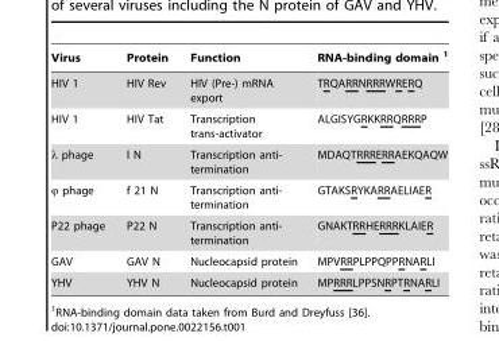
<table><thead><tr><td>Virus</td><td>Protein</td><td>Function</td><td>RNA-binding domain 1</td></tr></thead><tbody><tr><td>HIV 1</td><td>HIV Rev</td><td>HIV (Pre-) mRNA export</td><td>TRQARRNRRRWRERQ</td></tr><tr><td>HIV 1</td><td>HIV Tat</td><td>Transcription trans-activator</td><td>ALGISYGRKKRRQRRRP</td></tr><tr><td>λ phage</td><td>l N</td><td>Transcription anti- termination</td><td>MDAQTRRRERRAEKQAQW</td></tr><tr><td>ϕ phage</td><td>f 21 N</td><td>Transcription anti- termination</td><td>GTAKSRYKARRAELIAER</td></tr><tr><td>P22 phage</td><td>P22 N</td><td>Transcription anti- termination</td><td>GNAKTRRHERRRKLAIER</td></tr><tr><td>GAV</td><td>GAV N</td><td>Nucleocapsid protein</td><td>MPVRRPLPPQPPRNARLI</td></tr><tr><td>YHV</td><td>YHV N</td><td>Nucleocapsid protein</td><td>MPRRRLPPSNRPTRNARLI</td></tr></tbody></table>